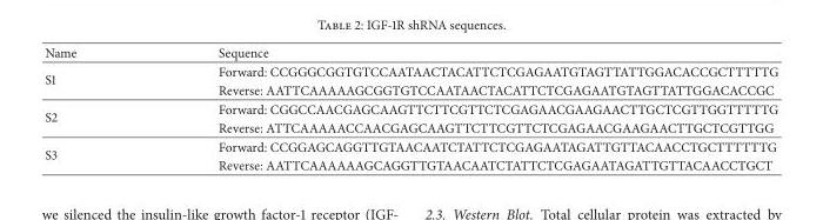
<table><thead><tr><td>Name</td><td>Sequence</td></tr></thead><tbody><tr><td rowspan="2">S1</td><td>Forward: CCGGGCGGTGTCCAATAACTACATTCTCGAGAATGTAGTTATTGGACACCGCTTTTTG</td></tr><tr><td>Reverse: AATTCAAAAAGCGGTGTCCAATAACTACATTCTCGAGAATGTAGTTATTGGACACCGC</td></tr><tr><td rowspan="2">S2</td><td>Forward: CGGCCAACGAGCAAGTTCTTCGTTCTCGAGAACGAAGAACTTGCTCGTTGGTTTTTG</td></tr><tr><td>Reverse: ATTCAAAAACCAACGAGCAAGTTCTTCGTTCTCGAGAACGAAGAACTTGCTCGTTGG</td></tr><tr><td rowspan="2">S3</td><td>Forward: CCGGAGCAGGTTGTAACAATCTATTCTCGAGAATAGATTGTTACAACCTGCTTTTTTG</td></tr><tr><td>Reverse: AATTCAAAAAAGCAGGTTGTAACAATCTATTCTCGAGAATAGATTGTTACAACCTGCT</td></tr></tbody></table>